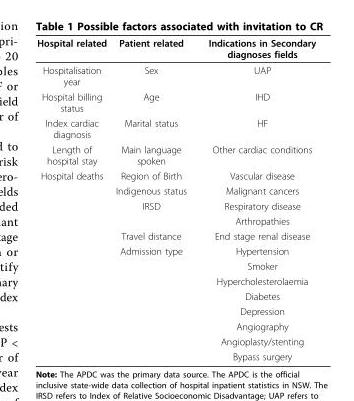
<table><thead><tr><td>Hospital related</td><td>Patient related</td><td>Indications in Secondary diagnoses fields</td></tr></thead><tbody><tr><td>Hospitalisation year</td><td>Sex</td><td>UAP</td></tr><tr><td>Hospital billing status</td><td>Age</td><td>IHD</td></tr><tr><td>Index cardiac diagnosis</td><td>Marital status</td><td>HF</td></tr><tr><td>Length of hospital stay</td><td>Main language spoken</td><td>Other cardiac conditions</td></tr><tr><td rowspan="13">Hospital deaths</td><td>Region of Birth</td><td>Vascular disease</td></tr><tr><td>Indigenous status</td><td>Malignant cancers</td></tr><tr><td>IRSD</td><td>Respiratory disease</td></tr><tr><td></td><td>Arthropathies</td></tr><tr><td>Travel distance</td><td>End stage renal disease</td></tr><tr><td>Admission type</td><td>Hypertension</td></tr><tr><td></td><td>Smoker</td></tr><tr><td></td><td>Hypercholesterolaemia</td></tr><tr><td></td><td>Diabetes</td></tr><tr><td></td><td>Depression</td></tr><tr><td></td><td>Angiography</td></tr><tr><td></td><td>Angioplasty/stenting</td></tr><tr><td></td><td>Bypass surgery</td></tr></tbody></table>